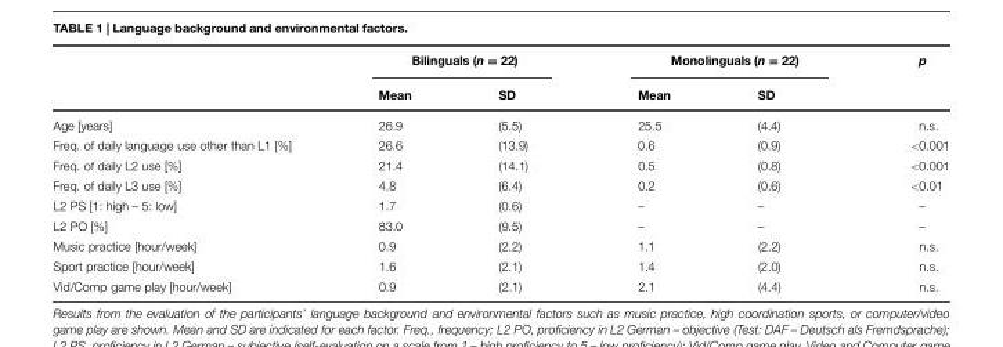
<table><thead><tr><td rowspan="2"></td><td colspan="2">Bilinguals (n = 22)</td><td colspan="2">Monolinguals (n = 22)</td><td rowspan="2">p</td></tr><tr><td>Mean</td><td>SD</td><td>Mean</td><td>SD</td></tr></thead><tbody><tr><td>Age [years]</td><td>26.9</td><td>(5.5)</td><td>25.5</td><td>(4.4)</td><td>n.s.</td></tr><tr><td>Freq. of daily language use other than L1 [%]</td><td>26.6</td><td>(13.9)</td><td>0.6</td><td>(0.9)</td><td>&lt;0.001</td></tr><tr><td>Freq. of daily L2 use [%]</td><td>21.4</td><td>(14.1)</td><td>0.5</td><td>(0.8)</td><td>&lt;0.001</td></tr><tr><td>Freq. of daily L3 use [%]</td><td>4.8</td><td>(6.4)</td><td>0.2</td><td>(0.6)</td><td>&lt;0.01</td></tr><tr><td>L2 PS [1: high – 5: low]</td><td>1.7</td><td>(0.6)</td><td>–</td><td>–</td><td>–</td></tr><tr><td>L2 PO [%]</td><td>83.0</td><td>(9.5)</td><td>–</td><td>–</td><td>–</td></tr><tr><td>Music practice [hour/week]</td><td>0.9</td><td>(2.2)</td><td>1.1</td><td>(2.2)</td><td>n.s.</td></tr><tr><td>Sport practice [hour/week]</td><td>1.6</td><td>(2.1)</td><td>1.4</td><td>(2.0)</td><td>n.s.</td></tr><tr><td>Vid/Comp game play [hour/week]</td><td>0.9</td><td>(2.1)</td><td>2.1</td><td>(4.4)</td><td>n.s.</td></tr></tbody></table>